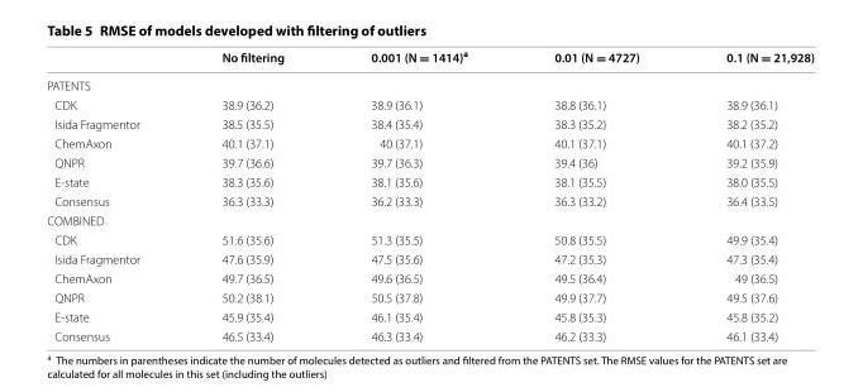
<table><thead><tr><td></td><td>No filtering</td><td>0.001 (N = 1414)<sup>a</sup></td><td>0.01 (N = 4727)</td><td>0.1 (N = 21,928)</td></tr></thead><tbody><tr><td colspan="5">PATENTS</td></tr><tr><td>CDK</td><td>38.9 (36.2)</td><td>38.9 (36.1)</td><td>38.8 (36.1)</td><td>38.9 (36.1)</td></tr><tr><td>Isida Fragmentor</td><td>38.5 (35.5)</td><td>38.4 (35.4)</td><td>38.3 (35.2)</td><td>38.2 (35.2)</td></tr><tr><td>ChemAxon</td><td>40.1 (37.1)</td><td>40 (37.1)</td><td>40.1 (37.1)</td><td>40.1 (37.2)</td></tr><tr><td>QNPR</td><td>39.7 (36.6)</td><td>39.7 (36.3)</td><td>39.4 (36)</td><td>39.2 (35.9)</td></tr><tr><td>E-state</td><td>38.3 (35.6)</td><td>38.1 (35.6)</td><td>38.1 (35.5)</td><td>38.0 (35.5)</td></tr><tr><td>Consensus</td><td>36.3 (33.3)</td><td>36.2 (33.3)</td><td>36.3 (33.2)</td><td>36.4 (33.5)</td></tr><tr><td colspan="5">COMBINED</td></tr><tr><td>CDK</td><td>51.6 (35.6)</td><td>51.3 (35.5)</td><td>50.8 (35.5)</td><td>49.9 (35.4)</td></tr><tr><td>Isida Fragmentor</td><td>47.6 (35.9)</td><td>47.5 (35.6)</td><td>47.2 (35.3)</td><td>47.3 (35.4)</td></tr><tr><td>ChemAxon</td><td>49.7 (36.5)</td><td>49.6 (36.5)</td><td>49.5 (36.4)</td><td>49 (36.5)</td></tr><tr><td>QNPR</td><td>50.2 (38.1)</td><td>50.5 (37.8)</td><td>49.9 (37.7)</td><td>49.5 (37.6)</td></tr><tr><td>E-state</td><td>45.9 (35.4)</td><td>46.1 (35.4)</td><td>45.8 (35.3)</td><td>45.8 (35.2)</td></tr><tr><td>Consensus</td><td>46.5 (33.4)</td><td>46.3 (33.4)</td><td>46.2 (33.3)</td><td>46.1 (33.4)</td></tr></tbody></table>